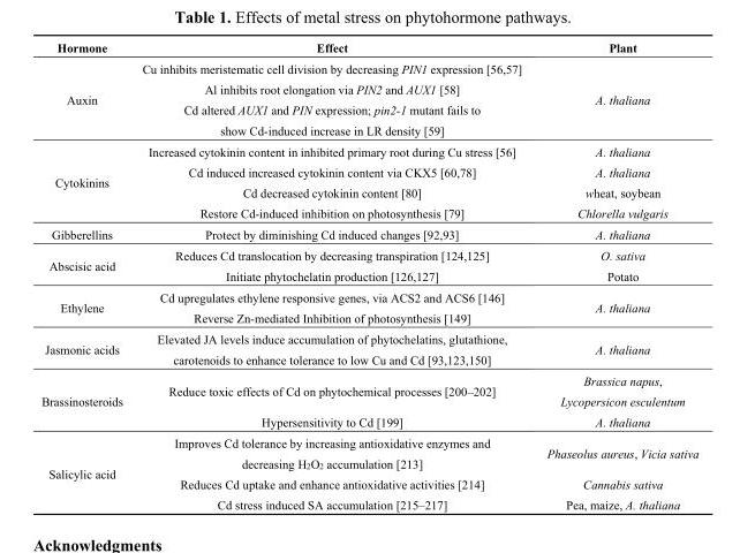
<table><thead><tr><td>Hormone</td><td>Effect</td><td>Plant</td></tr></thead><tbody><tr><td rowspan="3">Auxin</td><td>Cu inhibits meristematic cell division by decreasing PIN1 expression [56,57]</td><td rowspan="3">A. thaliana</td></tr><tr><td>Al inhibits root elongation via PIN2 and AUX1 [58]</td></tr><tr><td>Cd altered AUX1 and PIN expression; pin2-1 mutant fails to show Cd-induced increase in LR density [59]</td></tr><tr><td rowspan="4">Cytokinins</td><td>Increased cytokinin content in inhibited primary root during Cu stress [56]</td><td>A. thaliana</td></tr><tr><td>Cd induced increased cytokinin content via CKX5 [60,78]</td><td>A. thaliana</td></tr><tr><td>Cd decreased cytokinin content [80]</td><td>wheat, soybean</td></tr><tr><td>Restore Cd-induced inhibition on photosynthesis [79]</td><td>Chlorella vulgaris</td></tr><tr><td>Gibberellins</td><td>Protect by diminishing Cd induced changes [92,93]</td><td>A. thaliana</td></tr><tr><td rowspan="2">Abscisic acid</td><td>Reduces Cd translocation by decreasing transpiration [124,125]</td><td>O. sativa</td></tr><tr><td>Initiate phytochelatin production [126,127]</td><td>Potato</td></tr><tr><td rowspan="2">Ethylene</td><td>Cd upregulates ethylene responsive genes, via ACS2 and ACS6 [146]</td><td rowspan="2">A. thaliana</td></tr><tr><td>Reverse Zn-mediated Inhibition of photosynthesis [149]</td></tr><tr><td>Jasmonic acids</td><td>Elevated JA levels induce accumulation of phytochelatins, glutathione, carotenoids to enhance tolerance to low Cu and Cd [93,123,150]</td><td>A. thaliana</td></tr><tr><td rowspan="2">Brassinosteroids</td><td>Reduce toxic effects of Cd on phytochemical processes [200–202]</td><td>Brassica napus, Lycopersicon esculentum</td></tr><tr><td>Hypersensitivity to Cd [199]</td><td>A. thaliana</td></tr><tr><td rowspan="3">Salicylic acid</td><td>Improves Cd tolerance by increasing antioxidative enzymes and decreasing H<sub>2</sub>O<sub>2</sub> accumulation [213]</td><td>Phaseolus aureus, Vicia sativa</td></tr><tr><td>Reduces Cd uptake and enhance antioxidative activities [214]</td><td>Cannabis sativa</td></tr><tr><td>Cd stress induced SA accumulation [215–217]</td><td>Pea, maize, A. thaliana</td></tr></tbody></table>